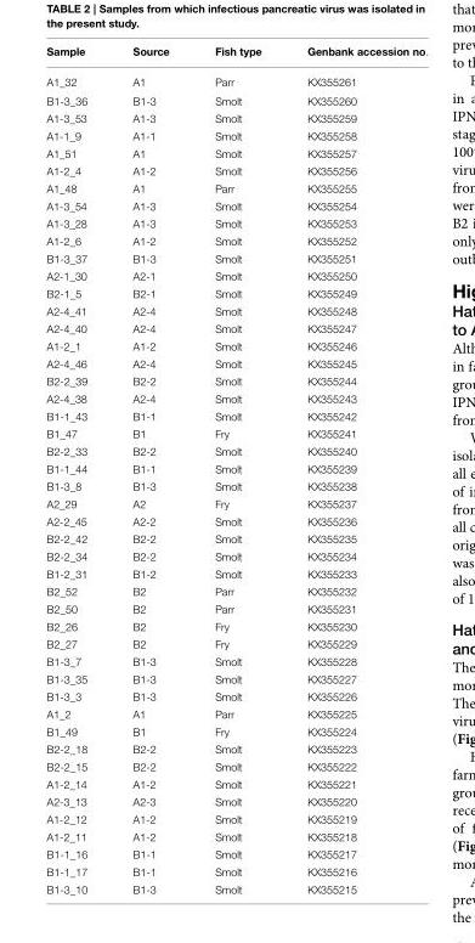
<table><thead><tr><td>Sample</td><td>Source</td><td>Fish type</td><td>Genbank accession no.</td></tr></thead><tbody><tr><td>A1_32</td><td>A1</td><td>Parr</td><td>KX355261</td></tr><tr><td>B1-3_36</td><td>B1-3</td><td>Smolt</td><td>KX355260</td></tr><tr><td>A1-3_53</td><td>A1-3</td><td>Smolt</td><td>KX355259</td></tr><tr><td>A1-1_9</td><td>A1-1</td><td>Smolt</td><td>KX355258</td></tr><tr><td>A1_51</td><td>A1</td><td>Smolt</td><td>KX355257</td></tr><tr><td>A1-2_4</td><td>A1-2</td><td>Smolt</td><td>KX355256</td></tr><tr><td>A1_48</td><td>A1</td><td>Parr</td><td>KX355255</td></tr><tr><td>A1-3_54</td><td>A1-3</td><td>Smolt</td><td>KX355254</td></tr><tr><td>A1-3_28</td><td>A1-3</td><td>Smolt</td><td>KX355253</td></tr><tr><td>A1-2_6</td><td>A1-2</td><td>Smolt</td><td>KX355252</td></tr><tr><td>B1-3_37</td><td>B1-3</td><td>Smolt</td><td>KX355251</td></tr><tr><td>A2-1_30</td><td>A2-1</td><td>Smolt</td><td>KX355250</td></tr><tr><td>B2-1_5</td><td>B2-1</td><td>Smolt</td><td>KX355249</td></tr><tr><td>A2-4_41</td><td>A2-4</td><td>Smolt</td><td>KX355248</td></tr><tr><td>A2-4_40</td><td>A2-4</td><td>Smolt</td><td>KX355247</td></tr><tr><td>A1-2_1</td><td>A1-2</td><td>Smolt</td><td>KX355246</td></tr><tr><td>A2-4_46</td><td>A2-4</td><td>Smolt</td><td>KX355245</td></tr><tr><td>B2-2_39</td><td>B2-2</td><td>Smolt</td><td>KX355244</td></tr><tr><td>A2-4_38</td><td>A2-4</td><td>Smolt</td><td>KX355243</td></tr><tr><td>B1-1_43</td><td>B1-1</td><td>Smolt</td><td>KX355242</td></tr><tr><td>B1_47</td><td>B1</td><td>Fry</td><td>KX355241</td></tr><tr><td>B2-2_33</td><td>B2-2</td><td>Smolt</td><td>KX355240</td></tr><tr><td>B1-1_44</td><td>B1-1</td><td>Smolt</td><td>KX355239</td></tr><tr><td>B1-3_8</td><td>B1-3</td><td>Smolt</td><td>KX355238</td></tr><tr><td>A2_29</td><td>A2</td><td>Fry</td><td>KX355237</td></tr><tr><td>A2-2_45</td><td>A2-2</td><td>Smolt</td><td>KX355236</td></tr><tr><td>B2-2_42</td><td>B2-2</td><td>Smolt</td><td>KX355235</td></tr><tr><td>B2-2_34</td><td>B2-2</td><td>Smolt</td><td>KX355234</td></tr><tr><td>B1-2_31</td><td>B1-2</td><td>Smolt</td><td>KX355233</td></tr><tr><td>B2_52</td><td>B2</td><td>Parr</td><td>KX355232</td></tr><tr><td>B2_50</td><td>B2</td><td>Parr</td><td>KX355231</td></tr><tr><td>B2_26</td><td>B2</td><td>Fry</td><td>KX355230</td></tr><tr><td>B2_27</td><td>B2</td><td>Fry</td><td>KX355229</td></tr><tr><td>B1-3_7</td><td>B1-3</td><td>Smolt</td><td>KX355228</td></tr><tr><td>B1-3_35</td><td>B1-3</td><td>Smolt</td><td>KX355227</td></tr><tr><td>B1-3_3</td><td>B1-3</td><td>Smolt</td><td>KX355226</td></tr><tr><td>A1_2</td><td>A1</td><td>Parr</td><td>KX355225</td></tr><tr><td>B1_49</td><td>B1</td><td>Fry</td><td>KX355224</td></tr><tr><td>B2-2_18</td><td>B2-2</td><td>Smolt</td><td>KX355223</td></tr><tr><td>B2-2_15</td><td>B2-2</td><td>Smolt</td><td>KX355222</td></tr><tr><td>A1-2_14</td><td>A1-2</td><td>Smolt</td><td>KX355221</td></tr><tr><td>A2-3_13</td><td>A2-3</td><td>Smolt</td><td>KX355220</td></tr><tr><td>A1-2_12</td><td>A1-2</td><td>Smolt</td><td>KX355219</td></tr><tr><td>A1-2_11</td><td>A1-2</td><td>Smolt</td><td>KX355218</td></tr><tr><td>B1-1_16</td><td>B1-1</td><td>Smolt</td><td>KX355217</td></tr><tr><td>B1-1_17</td><td>B1-1</td><td>Smolt</td><td>KX355216</td></tr><tr><td>B1-3_10</td><td>B1-3</td><td>Smolt</td><td>KX355215</td></tr></tbody></table>